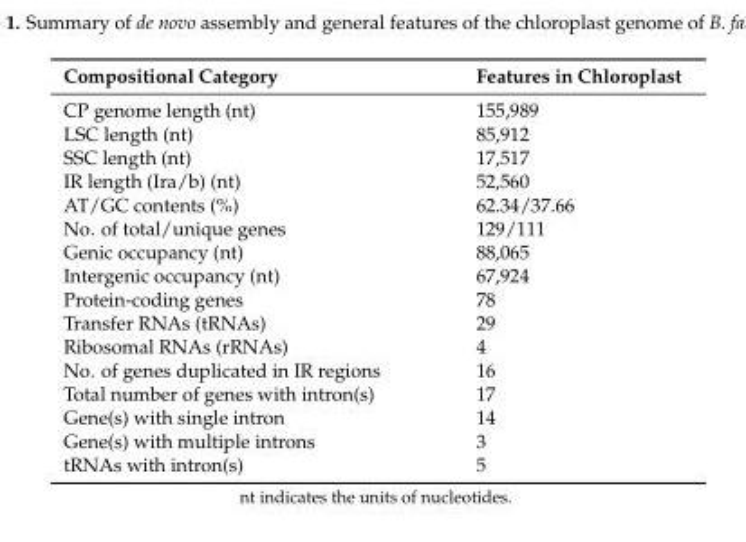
<table><thead><tr><td>Compositional Category</td><td>Features in Chloroplast</td></tr></thead><tbody><tr><td>CP genome length (nt)</td><td>155,989</td></tr><tr><td>LSC length (nt)</td><td>85,912</td></tr><tr><td>SSC length (nt)</td><td>17,517</td></tr><tr><td>IR length (Ira/b) (nt)</td><td>52,560</td></tr><tr><td>AT/GC contents (%)</td><td>62.34/37.66</td></tr><tr><td>No. of total/unique genes</td><td>129/111</td></tr><tr><td>Genic occupancy (nt)</td><td>88,065</td></tr><tr><td>Intergenic occupancy (nt)</td><td>67,924</td></tr><tr><td>Protein-coding genes</td><td>78</td></tr><tr><td>Transfer RNAs (tRNAs)</td><td>29</td></tr><tr><td>Ribosomal RNAs (rRNAs)</td><td>4</td></tr><tr><td>No. of genes duplicated in IR regions</td><td>16</td></tr><tr><td>Total number of genes with intron(s)</td><td>17</td></tr><tr><td>Gene(s) with single intron</td><td>14</td></tr><tr><td>Gene(s) with multiple introns</td><td>3</td></tr><tr><td>tRNAs with intron(s)</td><td>5</td></tr></tbody></table>